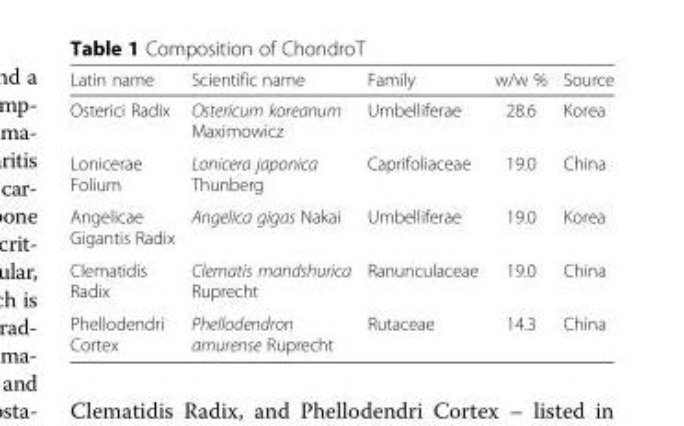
<table><thead><tr><td>Latin name</td><td>Scientific name</td><td>Family</td><td>w/w %</td><td>Source</td></tr></thead><tbody><tr><td>Osterici Radix</td><td>Ostericum koreanum Maximowicz</td><td>Umbelliferae</td><td>28.6</td><td>Korea</td></tr><tr><td>Lonicerae Folium</td><td>Lonicera japonica Thunberg</td><td>Caprifoliaceae</td><td>19.0</td><td>China</td></tr><tr><td>Angelicae Gigantis Radix</td><td>Angelica gigas Nakai</td><td>Umbelliferae</td><td>19.0</td><td>Korea</td></tr><tr><td>Clematidis Radix</td><td>Clematis mandshurica Ruprecht</td><td>Ranunculaceae</td><td>19.0</td><td>China</td></tr><tr><td>Phellodendri Cortex</td><td>Phellodendron amurense Ruprecht</td><td>Rutaceae</td><td>14.3</td><td>China</td></tr></tbody></table>